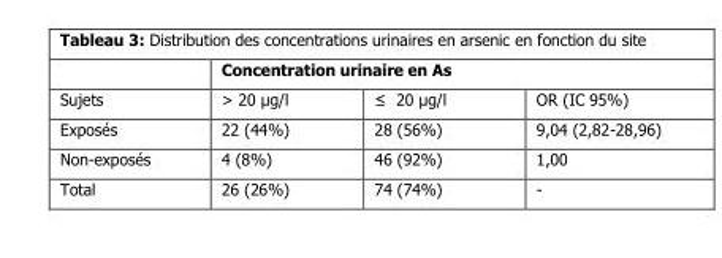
<table><thead><tr><td rowspan="2">Sujets</td><td colspan="3">Concentration urinaire en As</td></tr><tr><td>&gt; 20 µg/l</td><td>≤ 20 µg/l</td><td>OR (IC 95%)</td></tr></thead><tbody><tr><td>Exposés</td><td>22 (44%)</td><td>28 (56%)</td><td>9,04 (2,82-28,96)</td></tr><tr><td>Non-exposés</td><td>4 (8%)</td><td>46 (92%)</td><td>1,00</td></tr><tr><td>Total</td><td>26 (26%)</td><td>74 (74%)</td><td>-</td></tr></tbody></table>